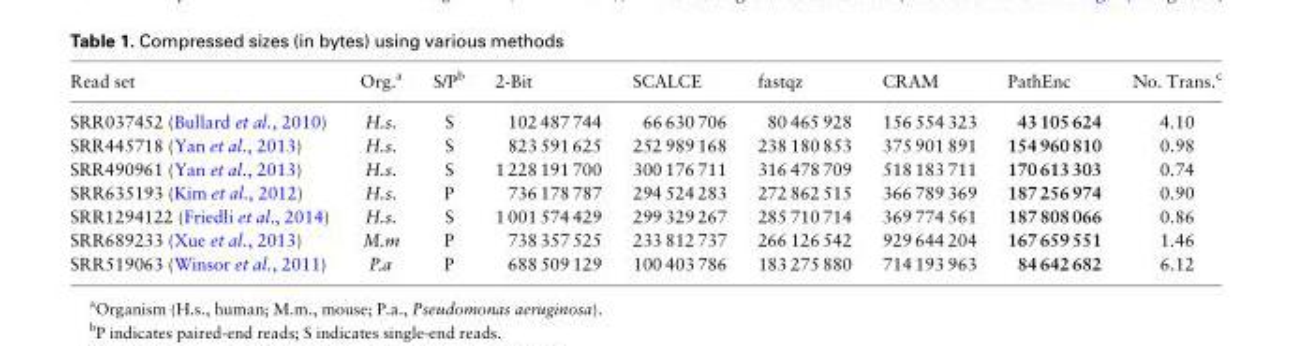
<table><thead><tr><td>Read set</td><td>Org.<sup>a</sup></td><td>S/P<sup>b</sup></td><td>2-Bit</td><td>SCALCE</td><td>fastqz</td><td>CRAM</td><td>PathEnc</td><td>No. Trans.<sup>c</sup></td></tr></thead><tbody><tr><td>SRR037452 (Bullard et al., 2010)</td><td>H.s.</td><td>S</td><td>102 487 744</td><td>66 630 706</td><td>80 465 928</td><td>156 554 323</td><td>43 105 624</td><td>4.10</td></tr><tr><td>SRR445718 (Yan et al., 2013)</td><td>H.s.</td><td>S</td><td>823 591 625</td><td>252 989 168</td><td>238 180 853</td><td>375 901 891</td><td>154 960 810</td><td>0.98</td></tr><tr><td>SRR490961 (Yan et al., 2013)</td><td>H.s.</td><td>S</td><td>1 228 191 700</td><td>300 176 711</td><td>316 478 709</td><td>518 183 711</td><td>170 613 303</td><td>0.74</td></tr><tr><td>SRR635193 (Kim et al., 2012)</td><td>H.s.</td><td>P</td><td>736 178 787</td><td>294 524 283</td><td>272 862 515</td><td>366 789 369</td><td>187 256 974</td><td>0.90</td></tr><tr><td>SRR1294122 (Friedli et al., 2014)</td><td>H.s.</td><td>S</td><td>1 001 574 429</td><td>299 329 267</td><td>285 710 714</td><td>369 774 561</td><td>187 808 066</td><td>0.86</td></tr><tr><td>SRR689233 (Xue et al., 2013)</td><td>M.m</td><td>P</td><td>738 357 525</td><td>233 812 737</td><td>266 126 542</td><td>929 644 204</td><td>167 659 551</td><td>1.46</td></tr><tr><td>SRR519063 (Winsor et al., 2011)</td><td>P.a</td><td>P</td><td>688 509 129</td><td>100 403 786</td><td>183 275 880</td><td>714 193 963</td><td>84 642 682</td><td>6.12</td></tr></tbody></table>